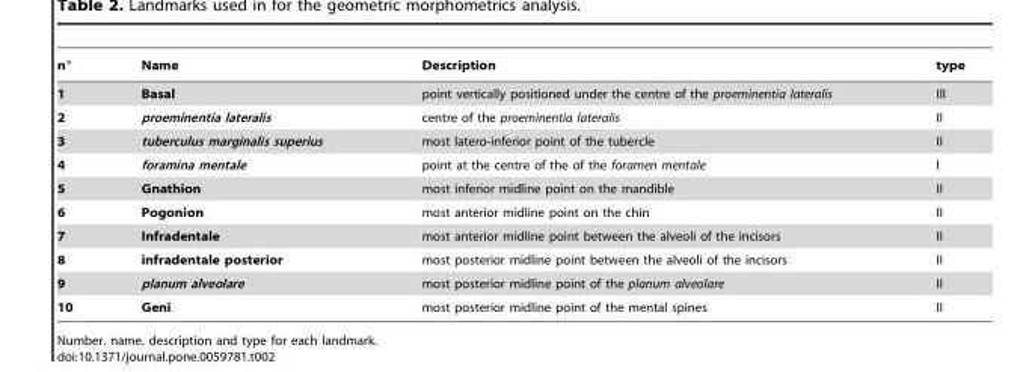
<table><thead><tr><td>n°</td><td>Name</td><td>Description</td><td>type</td></tr></thead><tbody><tr><td>1</td><td>Basal</td><td>point vertically positioned under the centre of the proeminentia lateralis</td><td>III</td></tr><tr><td>2</td><td>proeminentia lateralis</td><td>centre of the proeminentia lateralis</td><td>II</td></tr><tr><td>3</td><td>tuberculus marginalis superius</td><td>most latero-inferior point of the tubercle</td><td>II</td></tr><tr><td>4</td><td>foramina mentale</td><td>point at the centre of the of the foramen mentale</td><td>I</td></tr><tr><td>5</td><td>Gnathion</td><td>most inferior midline point on the mandible</td><td>II</td></tr><tr><td>6</td><td>Pogonion</td><td>most anterior midline point on the chin</td><td>II</td></tr><tr><td>7</td><td>Infradentale</td><td>most anterior midline point between the alveoli of the incisors</td><td>II</td></tr><tr><td>8</td><td>infradentale posterior</td><td>most posterior midline point between the alveoli of the incisors</td><td>II</td></tr><tr><td>9</td><td>planum alveolare</td><td>most posterior midline point of the planum alveolare</td><td>II</td></tr><tr><td>10</td><td>Geni</td><td>most posterior midline point of the mental spines</td><td>II</td></tr></tbody></table>